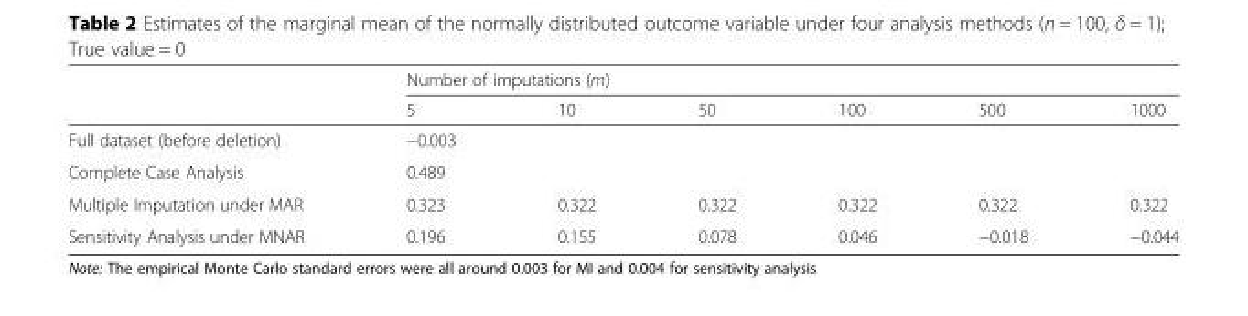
<table><thead><tr><td rowspan="2"></td><td colspan="6">Number of imputations (m)</td></tr><tr><td>5</td><td>10</td><td>50</td><td>100</td><td>500</td><td>1000</td></tr></thead><tbody><tr><td>Full dataset (before deletion)</td><td>−0.003</td><td></td><td></td><td></td><td></td><td></td></tr><tr><td>Complete Case Analysis</td><td>0.489</td><td></td><td></td><td></td><td></td><td></td></tr><tr><td>Multiple Imputation under MAR</td><td>0.323</td><td>0.322</td><td>0.322</td><td>0.322</td><td>0.322</td><td>0.322</td></tr><tr><td>Sensitivity Analysis under MNAR</td><td>0.196</td><td>0.155</td><td>0.078</td><td>0.046</td><td>−0.018</td><td>−0.044</td></tr></tbody></table>